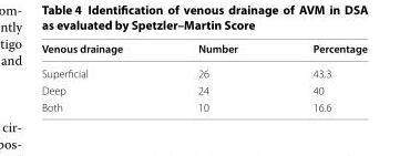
<table><thead><tr><td>Venous drainage</td><td>Number</td><td>Percentage</td></tr></thead><tbody><tr><td>Superficial</td><td>26</td><td>43.3</td></tr><tr><td>Deep</td><td>24</td><td>40</td></tr><tr><td>Both</td><td>10</td><td>16.6</td></tr></tbody></table>